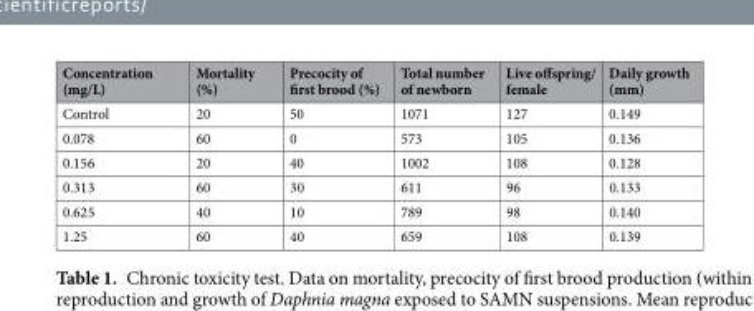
<table><thead><tr><td>Concentration (mg/L)</td><td>Mortality (%)</td><td>Precocity of first brood (%)</td><td>Total number of newborn</td><td>Live offspring/ female</td><td>Daily growth (mm)</td></tr></thead><tbody><tr><td>Control</td><td>20</td><td>50</td><td>1071</td><td>127</td><td>0.149</td></tr><tr><td>0.078</td><td>60</td><td>0</td><td>573</td><td>105</td><td>0.136</td></tr><tr><td>0.156</td><td>20</td><td>40</td><td>1002</td><td>108</td><td>0.128</td></tr><tr><td>0.313</td><td>60</td><td>30</td><td>611</td><td>96</td><td>0.133</td></tr><tr><td>0.625</td><td>40</td><td>10</td><td>789</td><td>98</td><td>0.140</td></tr><tr><td>1.25</td><td>60</td><td>40</td><td>659</td><td>108</td><td>0.139</td></tr></tbody></table>